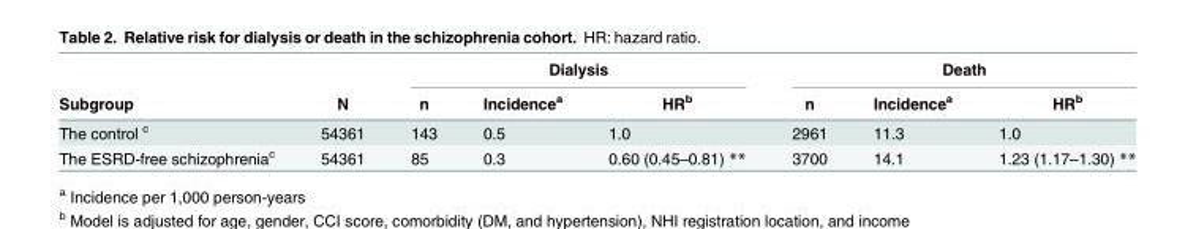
<table><thead><tr><td rowspan="2">Subgroup</td><td rowspan="2">N</td><td colspan="3">Dialysis</td><td colspan="3">Death</td></tr><tr><td>n</td><td>Incidence<sup>a</sup></td><td>HR<sup>b</sup></td><td>n</td><td>Incidence<sup>a</sup></td><td>HR<sup>b</sup></td></tr></thead><tbody><tr><td>The control <sup>c</sup></td><td>54361</td><td>143</td><td>0.5</td><td>1.0</td><td>2961</td><td>11.3</td><td>1.0</td></tr><tr><td>The ESRD-free schizophrenia<sup>c</sup></td><td>54361</td><td>85</td><td>0.3</td><td>0.60 (0.45–0.81) **</td><td>3700</td><td>14.1</td><td>1.23 (1.17–1.30) **</td></tr></tbody></table>